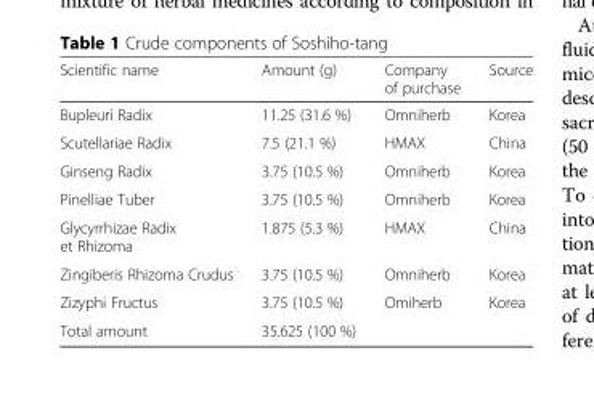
<table><thead><tr><td>Scientific name</td><td>Amount (g)</td><td>Company of purchase</td><td>Source</td></tr></thead><tbody><tr><td>Bupleuri Radix</td><td>11.25 (31.6 %)</td><td>Omniherb</td><td>Korea</td></tr><tr><td>Scutellariae Radix</td><td>7.5 (21.1 %)</td><td>HMAX</td><td>China</td></tr><tr><td>Ginseng Radix</td><td>3.75 (10.5 %)</td><td>Omniherb</td><td>Korea</td></tr><tr><td>Pinelliae Tuber</td><td>3.75 (10.5 %)</td><td>Omniherb</td><td>Korea</td></tr><tr><td>Glycyrrhizae Radix et Rhizoma</td><td>1.875 (5.3 %)</td><td>HMAX</td><td>China</td></tr><tr><td>Zingiberis Rhizoma Crudus</td><td>3.75 (10.5 %)</td><td>Omniherb</td><td>Korea</td></tr><tr><td>Zizyphi Fructus</td><td>3.75 (10.5 %)</td><td>Omiherb</td><td>Korea</td></tr><tr><td>Total amount</td><td>35.625 (100 %)</td><td></td><td></td></tr></tbody></table>